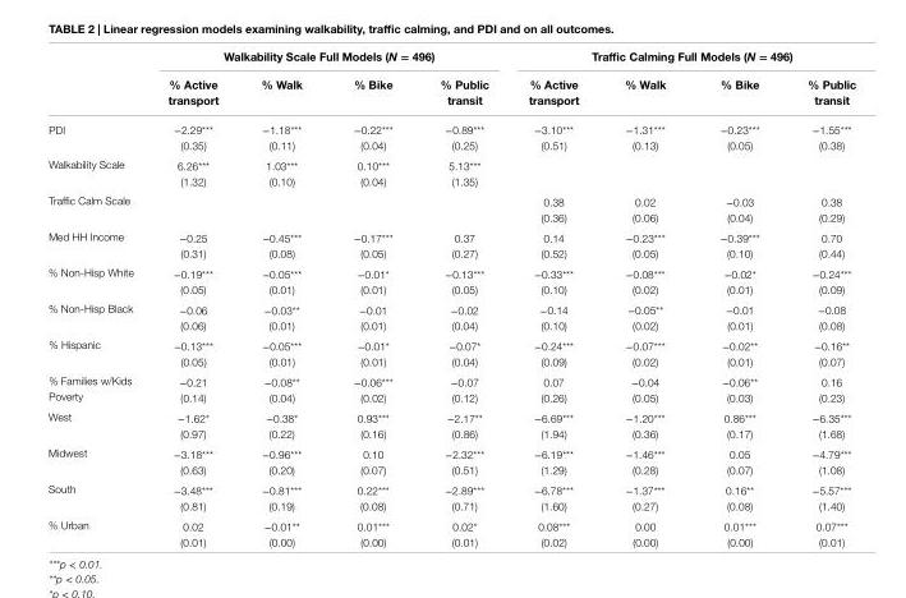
<table><thead><tr><td rowspan="2"></td><td colspan="4">Walkability scale Full Models (N = 496)</td><td colspan="4">Traffic calming Full Models (N = 496)</td></tr><tr><td>% active transport</td><td>% Walk</td><td>% Bike</td><td>% Public transit</td><td>% active transport</td><td>% Walk</td><td>% Bike</td><td>% Public transit</td></tr></thead><tbody><tr><td>PDI</td><td>−2.29*** (0.35)</td><td>−1.18*** (0.11)</td><td>−0.22*** (0.04)</td><td>−0.89*** (0.25)</td><td>−3.10*** (0.51)</td><td>−1.31*** (0.13)</td><td>−0.23*** (0.05)</td><td>−1.55*** (0.38)</td></tr><tr><td>Walkability Scale</td><td>6.26*** (1.32)</td><td>1.03*** (0.10)</td><td>0.10*** (0.04)</td><td>5.13*** (1.35)</td><td></td><td></td><td></td><td></td></tr><tr><td>Traffic Calm Scale</td><td></td><td></td><td></td><td></td><td>0.38 (0.36)</td><td>0.02 (0.06)</td><td>−0.03 (0.04)</td><td>0.38 (0.29)</td></tr><tr><td>Med HH Income</td><td>−0.25 (0.31)</td><td>−0.45*** (0.08)</td><td>−0.17*** (0.05)</td><td>0.37 (0.27)</td><td>0.14 (0.52)</td><td>−0.23*** (0.05)</td><td>−0.39*** (0.10)</td><td>0.70 (0.44)</td></tr><tr><td>% Non-Hisp White</td><td>−0.19*** (0.05)</td><td>−0.05*** (0.01)</td><td>−0.01* (0.01)</td><td>−0.13*** (0.05)</td><td>−0.33*** (0.10)</td><td>−0.08*** (0.02)</td><td>−0.02* (0.01)</td><td>−0.24*** (0.09)</td></tr><tr><td>% Non-Hisp Black</td><td>−0.06 (0.06)</td><td>−0.03** (0.01)</td><td>−0.01 (0.01)</td><td>−0.02 (0.04)</td><td>−0.14 (0.10)</td><td>−0.05** (0.02)</td><td>−0.01 (0.01)</td><td>−0.08 (0.08)</td></tr><tr><td>% Hispanic</td><td>−0.13*** (0.05)</td><td>−0.05*** (0.01)</td><td>−0.01* (0.01)</td><td>−0.07* (0.04)</td><td>−0.24*** (0.09)</td><td>−0.07*** (0.02)</td><td>−0.02** (0.01)</td><td>−0.16** (0.07)</td></tr><tr><td>% Families w/Kids Poverty</td><td>−0.21 (0.14)</td><td>−0.08** (0.04)</td><td>−0.06*** (0.02)</td><td>−0.07 (0.12)</td><td>0.07 (0.26)</td><td>−0.04 (0.05)</td><td>−0.06** (0.03)</td><td>0.16 (0.23)</td></tr><tr><td>West</td><td>−1.62* (0.97)</td><td>−0.38* (0.22)</td><td>0.93*** (0.16)</td><td>−2.17** (0.86)</td><td>−6.69*** (1.94)</td><td>−1.20*** (0.36)</td><td>0.86*** (0.17)</td><td>−6.35*** (1.68)</td></tr><tr><td>Midwest</td><td>−3.18*** (0.63)</td><td>−0.96*** (0.20)</td><td>0.10 (0.07)</td><td>−2.32*** (0.51)</td><td>−6.19*** (1.29)</td><td>−1.46*** (0.28)</td><td>0.05 (0.07)</td><td>−4.79*** (1.08)</td></tr><tr><td>South</td><td>−3.48*** (0.81)</td><td>−0.81*** (0.19)</td><td>0.22*** (0.08)</td><td>−2.89*** (0.71)</td><td>−6.78*** (1.60)</td><td>−1.37*** (0.27)</td><td>0.16** (0.08)</td><td>−5.57*** (1.40)</td></tr><tr><td>% Urban</td><td>0.02 (0.01)</td><td>−0.01** (0.00)</td><td>0.01*** (0.00)</td><td>0.02* (0.01)</td><td>0.08*** (0.02)</td><td>0.00 (0.00)</td><td>0.01*** (0.00)</td><td>0.07*** (0.01)</td></tr></tbody></table>